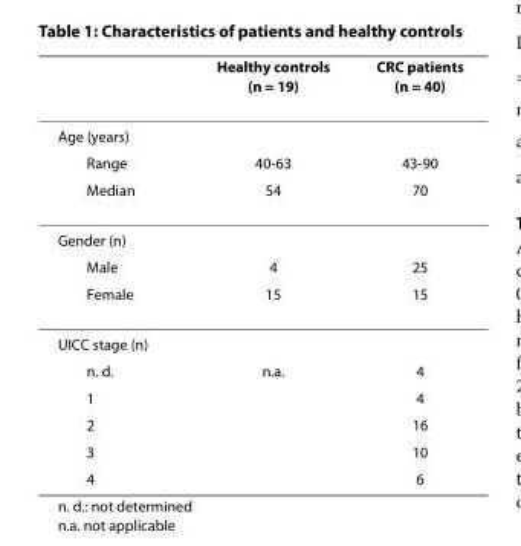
<table><thead><tr><td></td><td>Healthy controls (n = 19)</td><td>CRC patients (n = 40)</td></tr></thead><tbody><tr><td colspan="3">Age (years)</td></tr><tr><td>Range</td><td>40-63</td><td>43-90</td></tr><tr><td>Median</td><td>54</td><td>70</td></tr><tr><td colspan="3">Gender (n)</td></tr><tr><td>Male</td><td>4</td><td>25</td></tr><tr><td>Female</td><td>15</td><td>15</td></tr><tr><td colspan="3">UICC stage (n)</td></tr><tr><td>n. d.</td><td>n.a.</td><td>4</td></tr><tr><td>1</td><td></td><td>4</td></tr><tr><td>2</td><td></td><td>16</td></tr><tr><td>3</td><td></td><td>10</td></tr><tr><td>4</td><td></td><td>6</td></tr></tbody></table>